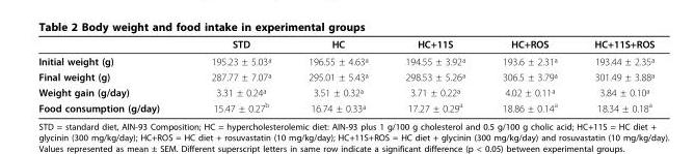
<table><thead><tr><td></td><td>STD</td><td>HC</td><td>HC+11S</td><td>HC+ROS</td><td>HC+11S+ROS</td></tr></thead><tbody><tr><td>Initial weight (g)</td><td>195.23 ± 5.03ª</td><td>196.55 ± 4.63ª</td><td>194.55 ± 3.92ª</td><td>193.6 ± 2.31ª</td><td>193.44 ± 2.35ª</td></tr><tr><td>Final weight (g)</td><td>287.77 ± 7.07ª</td><td>295.01 ± 5.43ª</td><td>298.53 ± 5.26ª</td><td>306.5 ± 3.79ª</td><td>301.49 ± 3.88ª</td></tr><tr><td>Weight gain (g/day)</td><td>3.31 ± 0.24ª</td><td>3.51 ± 0.32ª</td><td>3.71 ± 0.22ª</td><td>4.02 ± 0.11ª</td><td>3.84 ± 0.10ª</td></tr><tr><td>Food consumption (g/day)</td><td>15.47 ± 0.27<sup>b</sup></td><td>16.74 ± 0.33ª</td><td>17.27 ± 0.29<sup>a</sup></td><td>18.86 ± 0.14<sup>a</sup></td><td>18.34 ± 0.18<sup>a</sup></td></tr></tbody></table>